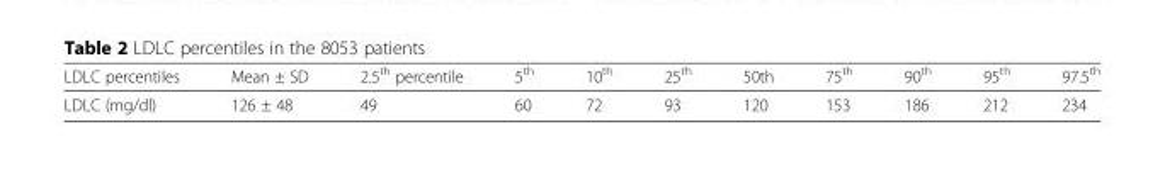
<table><thead><tr><td>LDLC percentiles</td><td>Mean ± SD</td><td>2.5<sup>th</sup> percentile</td><td>5<sup>th</sup></td><td>10<sup>th</sup></td><td>25<sup>th</sup></td><td>50th</td><td>75<sup>th</sup></td><td>90<sup>th</sup></td><td>95<sup>th</sup></td><td>97.5<sup>th</sup></td></tr></thead><tbody><tr><td>LDLC (mg/dl)</td><td>126 ± 48</td><td>49</td><td>60</td><td>72</td><td>93</td><td>120</td><td>153</td><td>186</td><td>212</td><td>234</td></tr></tbody></table>